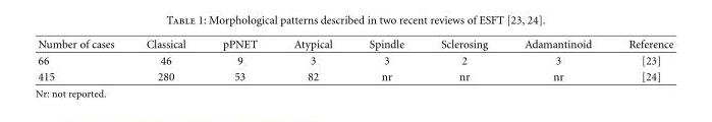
<table><thead><tr><td>Number of cases</td><td>Classical</td><td>pPNET</td><td>Atypical</td><td>Spindle</td><td>Sclerosing</td><td>Adamantinoid</td><td>Reference</td></tr></thead><tbody><tr><td>66</td><td>46</td><td>9</td><td>3</td><td>3</td><td>2</td><td>3</td><td>[23]</td></tr><tr><td>415</td><td>280</td><td>53</td><td>82</td><td>nr</td><td>nr</td><td>nr</td><td>[24]</td></tr></tbody></table>